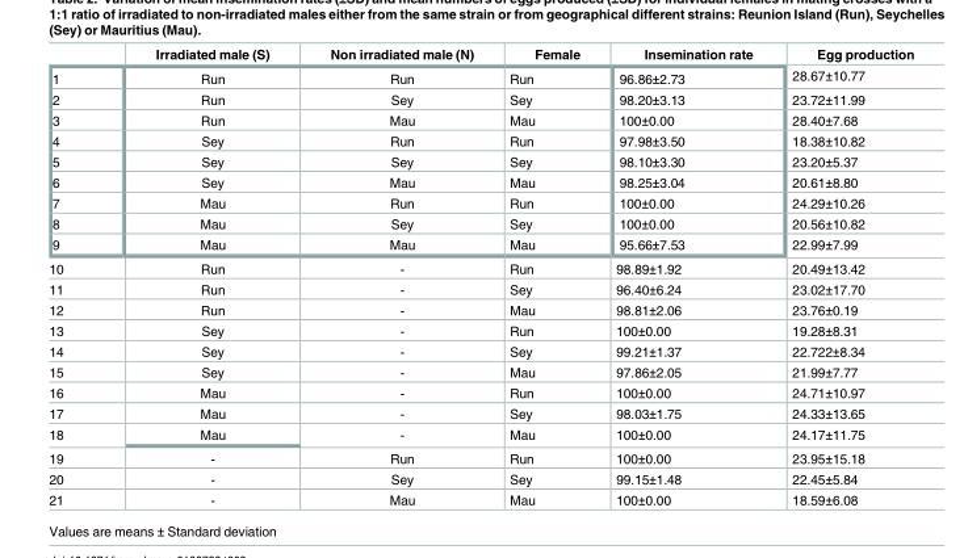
<table><thead><tr><td></td><td>Irradiated male (S)</td><td>Non irradiated male (N)</td><td>Female</td><td>Insemination rate</td><td>Egg production</td></tr></thead><tbody><tr><td>1</td><td>Run</td><td>Run</td><td>Run</td><td>96.86±2.73</td><td>28.67±10.77</td></tr><tr><td>2</td><td>Run</td><td>Sey</td><td>Sey</td><td>98.20±3.13</td><td>23.72±11.99</td></tr><tr><td>3</td><td>Run</td><td>Mau</td><td>Mau</td><td>100±0.00</td><td>28.40±7.68</td></tr><tr><td>4</td><td>Sey</td><td>Run</td><td>Run</td><td>97.98±3.50</td><td>18.38±10.82</td></tr><tr><td>5</td><td>Sey</td><td>Sey</td><td>Sey</td><td>98.10±3.30</td><td>23.20±5.37</td></tr><tr><td>6</td><td>Sey</td><td>Mau</td><td>Mau</td><td>98.25±3.04</td><td>20.61±8.80</td></tr><tr><td>7</td><td>Mau</td><td>Run</td><td>Run</td><td>100±0.00</td><td>24.29±10.26</td></tr><tr><td>8</td><td>Mau</td><td>Sey</td><td>Sey</td><td>100±0.00</td><td>20.56±10.82</td></tr><tr><td>9</td><td>Mau</td><td>Mau</td><td>Mau</td><td>95.66±7.53</td><td>22.99±7.99</td></tr><tr><td>10</td><td>Run</td><td>-</td><td>Run</td><td>98.89±1.92</td><td>20.49±13.42</td></tr><tr><td>11</td><td>Run</td><td>-</td><td>Sey</td><td>96.40±6.24</td><td>23.02±17.70</td></tr><tr><td>12</td><td>Run</td><td>-</td><td>Mau</td><td>98.81±2.06</td><td>23.76±0.19</td></tr><tr><td>13</td><td>Sey</td><td>-</td><td>Run</td><td>100±0.00</td><td>19.28±8.31</td></tr><tr><td>14</td><td>Sey</td><td>-</td><td>Sey</td><td>99.21±1.37</td><td>22.722±8.34</td></tr><tr><td>15</td><td>Sey</td><td>-</td><td>Mau</td><td>97.86±2.05</td><td>21.99±7.77</td></tr><tr><td>16</td><td>Mau</td><td>-</td><td>Run</td><td>100±0.00</td><td>24.71±10.97</td></tr><tr><td>17</td><td>Mau</td><td>-</td><td>Sey</td><td>98.03±1.75</td><td>24.33±13.65</td></tr><tr><td>18</td><td>Mau</td><td>-</td><td>Mau</td><td>100±0.00</td><td>24.17±11.75</td></tr><tr><td>19</td><td>-</td><td>Run</td><td>Run</td><td>100±0.00</td><td>23.95±15.18</td></tr><tr><td>20</td><td>-</td><td>Sey</td><td>Sey</td><td>99.15±1.48</td><td>22.45±5.84</td></tr><tr><td>21</td><td>-</td><td>Mau</td><td>Mau</td><td>100±0.00</td><td>18.59±6.08</td></tr></tbody></table>